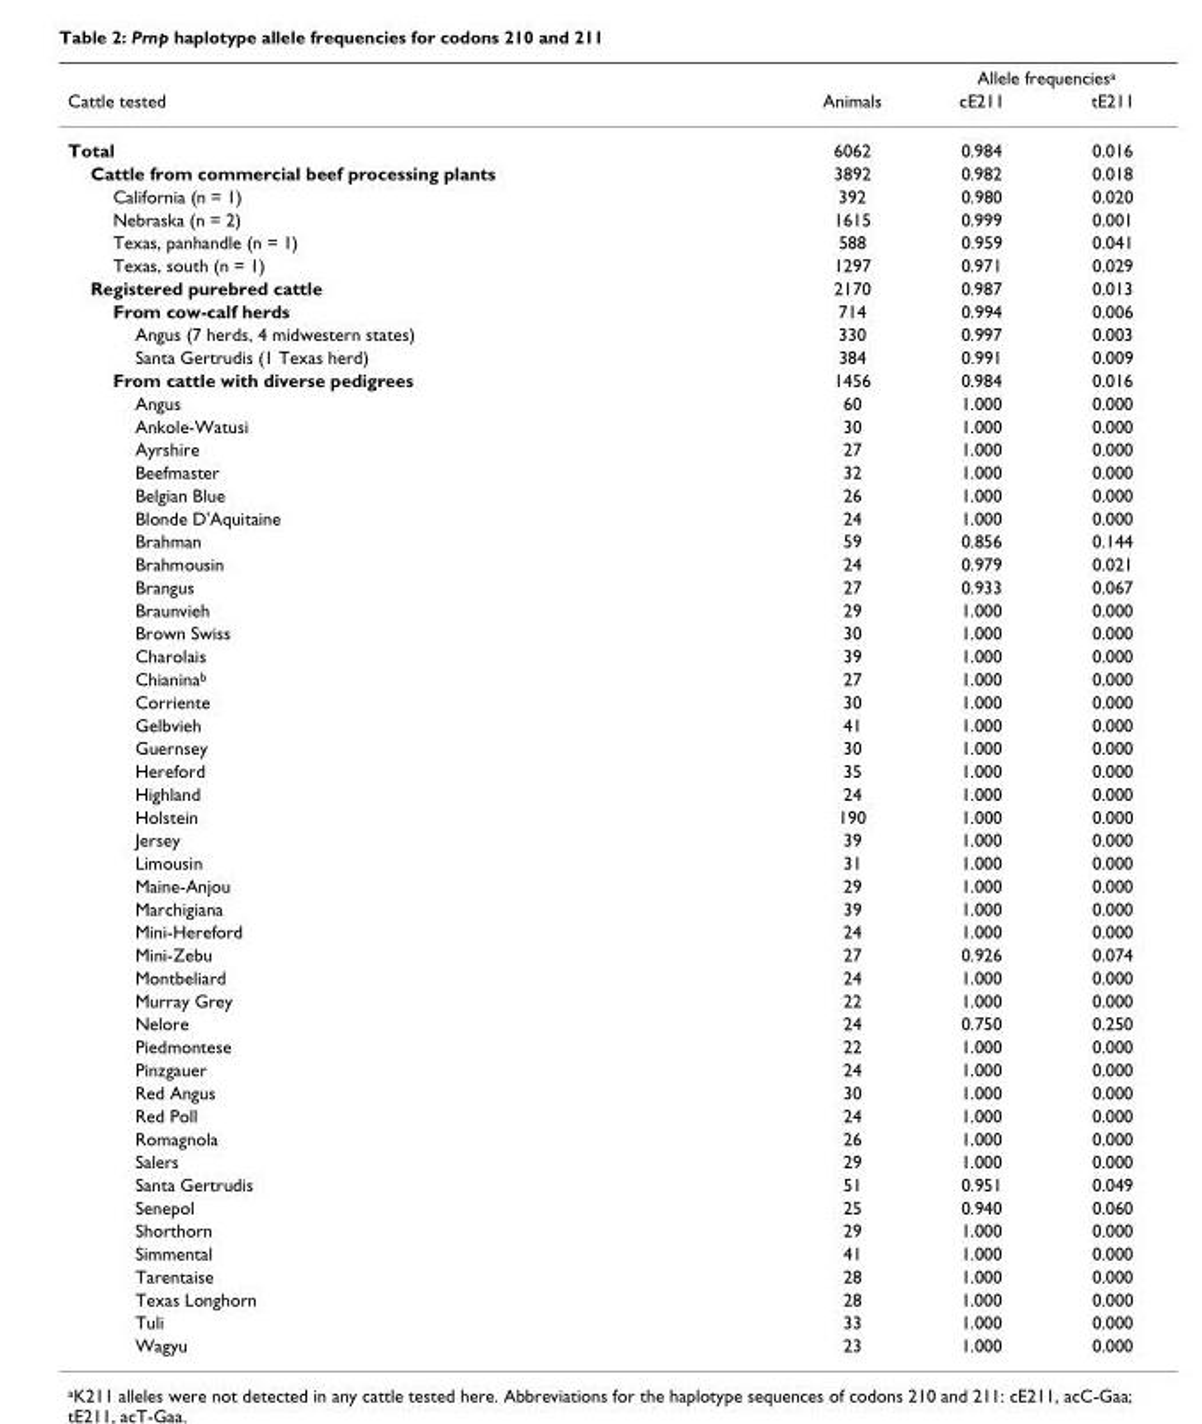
<table><thead><tr><td rowspan="2">Cattle tested</td><td rowspan="2">Animals</td><td colspan="2">Allele frequencies<sup>a</sup></td></tr><tr><td>cE211</td><td>tE211</td></tr></thead><tbody><tr><td>Total</td><td>6062</td><td>0.984</td><td>0.016</td></tr><tr><td>Cattle from commercial beef processing plants</td><td>3892</td><td>0.982</td><td>0.018</td></tr><tr><td>California (n = 1)</td><td>392</td><td>0.980</td><td>0.020</td></tr><tr><td>Nebraska (n = 2)</td><td>1615</td><td>0.999</td><td>0.001</td></tr><tr><td>Texas, panhandle (n = 1)</td><td>588</td><td>0.959</td><td>0.041</td></tr><tr><td>Texas, south (n = 1)</td><td>1297</td><td>0.971</td><td>0.029</td></tr><tr><td>Registered purebred cattle</td><td>2170</td><td>0.987</td><td>0.013</td></tr><tr><td>From cow-calf herds</td><td>714</td><td>0.994</td><td>0.006</td></tr><tr><td>Angus (7 herds, 4 midwestern states)</td><td>330</td><td>0.997</td><td>0.003</td></tr><tr><td>Santa Gertrudis (1 Texas herd)</td><td>384</td><td>0.991</td><td>0.009</td></tr><tr><td>From cattle with diverse pedigrees</td><td>1456</td><td>0.984</td><td>0.016</td></tr><tr><td>Angus</td><td>60</td><td>1.000</td><td>0.000</td></tr><tr><td>Ankole-Watusi</td><td>30</td><td>1.000</td><td>0.000</td></tr><tr><td>Ayrshire</td><td>27</td><td>1.000</td><td>0.000</td></tr><tr><td>Beefmaster</td><td>32</td><td>1.000</td><td>0.000</td></tr><tr><td>Belgian Blue</td><td>26</td><td>1.000</td><td>0.000</td></tr><tr><td>Blonde D&#x27;Aquitaine</td><td>24</td><td>1.000</td><td>0.000</td></tr><tr><td>Brahman</td><td>59</td><td>0.856</td><td>0.144</td></tr><tr><td>Brahmousin</td><td>24</td><td>0.979</td><td>0.021</td></tr><tr><td>Brangus</td><td>27</td><td>0.933</td><td>0.067</td></tr><tr><td>Braunvieh</td><td>29</td><td>1.000</td><td>0.000</td></tr><tr><td>Brown Swiss</td><td>30</td><td>1.000</td><td>0.000</td></tr><tr><td>Charolais</td><td>39</td><td>1.000</td><td>0.000</td></tr><tr><td>Chianina<sup>b</sup></td><td>27</td><td>1.000</td><td>0.000</td></tr><tr><td>Corriente</td><td>30</td><td>1.000</td><td>0.000</td></tr><tr><td>Gelbvieh</td><td>41</td><td>1.000</td><td>0.000</td></tr><tr><td>Guernsey</td><td>30</td><td>1.000</td><td>0.000</td></tr><tr><td>Hereford</td><td>35</td><td>1.000</td><td>0.000</td></tr><tr><td>Highland</td><td>24</td><td>1.000</td><td>0.000</td></tr><tr><td>Holstein</td><td>190</td><td>1.000</td><td>0.000</td></tr><tr><td>Jersey</td><td>39</td><td>1.000</td><td>0.000</td></tr><tr><td>Limousin</td><td>31</td><td>1.000</td><td>0.000</td></tr><tr><td>Maine-Anjou</td><td>29</td><td>1.000</td><td>0.000</td></tr><tr><td>Marchigiana</td><td>39</td><td>1.000</td><td>0.000</td></tr><tr><td>Mini-Hereford</td><td>24</td><td>1.000</td><td>0.000</td></tr><tr><td>Mini-Zebu</td><td>27</td><td>0.926</td><td>0.074</td></tr><tr><td>Montbeliard</td><td>24</td><td>1.000</td><td>0.000</td></tr><tr><td>Murray Grey</td><td>22</td><td>1.000</td><td>0.000</td></tr><tr><td>Nelore</td><td>24</td><td>0.750</td><td>0.250</td></tr><tr><td>Piedmontese</td><td>22</td><td>1.000</td><td>0.000</td></tr><tr><td>Pinzgauer</td><td>24</td><td>1.000</td><td>0.000</td></tr><tr><td>Red Angus</td><td>30</td><td>1.000</td><td>0.000</td></tr><tr><td>Red Poll</td><td>24</td><td>1.000</td><td>0.000</td></tr><tr><td>Romagnola</td><td>26</td><td>1.000</td><td>0.000</td></tr><tr><td>Salers</td><td>29</td><td>1.000</td><td>0.000</td></tr><tr><td>Santa Gertrudis</td><td>51</td><td>0.951</td><td>0.049</td></tr><tr><td>Senepol</td><td>25</td><td>0.940</td><td>0.060</td></tr><tr><td>Shorthorn</td><td>29</td><td>1.000</td><td>0.000</td></tr><tr><td>Simmental</td><td>41</td><td>1.000</td><td>0.000</td></tr><tr><td>Tarentaise</td><td>28</td><td>1.000</td><td>0.000</td></tr><tr><td>Texas Longhorn</td><td>28</td><td>1.000</td><td>0.000</td></tr><tr><td>Tuli</td><td>33</td><td>1.000</td><td>0.000</td></tr><tr><td>Wagyu</td><td>23</td><td>1.000</td><td>0.000</td></tr></tbody></table>